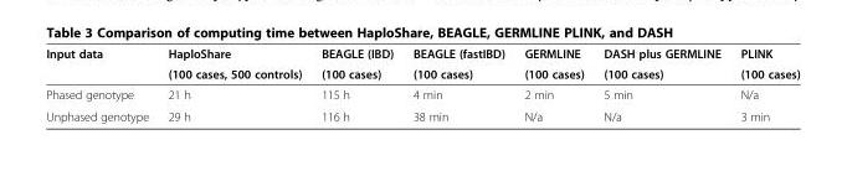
<table><thead><tr><td rowspan="2">Input data</td><td rowspan="2">HaploShare (100 cases, 500 controls)</td><td rowspan="2">BEAGLE (IBD) (100 cases)</td><td rowspan="2">BEAGLE (fastIBD) (100 cases)</td><td rowspan="2">GERMLINE (100 cases)</td><td rowspan="2">DASH plus GERMLINE (100 cases)</td><td rowspan="2">PLINK (100 cases)</td></tr><tr></tr></thead><tbody><tr><td>Phased genotype</td><td>21 h</td><td>115 h</td><td>4 min</td><td>2 min</td><td>5 min</td><td>N/a</td></tr><tr><td>Unphased genotype</td><td>29 h</td><td>116 h</td><td>38 min</td><td>N/a</td><td>N/a</td><td>3 min</td></tr></tbody></table>